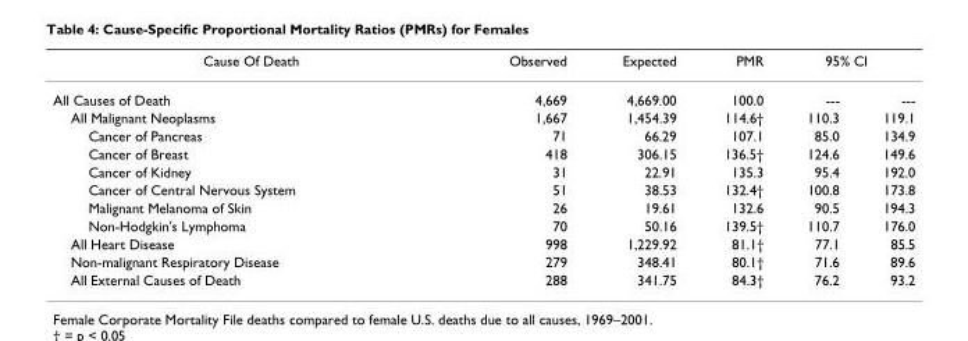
<table><thead><tr><td rowspan="2">Cause Of Death All Causes of Death</td><td rowspan="2">Observed 4,669</td><td rowspan="2">Expected 4,669.00</td><td rowspan="2">PMR 100.0</td><td colspan="2">95% CI</td></tr><tr><td>---</td><td>---</td></tr></thead><tbody><tr><td>All Malignant Neoplasms</td><td>1,667</td><td>1,454.39</td><td>114.6†</td><td>110.3</td><td>119.1</td></tr><tr><td>Cancer of Pancreas</td><td>71</td><td>66.29</td><td>107.1</td><td>85.0</td><td>134.9</td></tr><tr><td>Cancer of Breast</td><td>418</td><td>306.15</td><td>136.5†</td><td>124.6</td><td>149.6</td></tr><tr><td>Cancer of Kidney</td><td>31</td><td>22.91</td><td>135.3</td><td>95.4</td><td>192.0</td></tr><tr><td>Cancer of Central Nervous System</td><td>51</td><td>38.53</td><td>132.4†</td><td>100.8</td><td>173.8</td></tr><tr><td>Malignant Melanoma of Skin</td><td>26</td><td>19.61</td><td>132.6</td><td>90.5</td><td>194.3</td></tr><tr><td>Non-Hodgkin&#x27;s Lymphoma</td><td>70</td><td>50.16</td><td>139.5†</td><td>110.7</td><td>176.0</td></tr><tr><td>All Heart Disease</td><td>998</td><td>1,229.92</td><td>81.1†</td><td>77.1</td><td>85.5</td></tr><tr><td>Non-malignant Respiratory Disease</td><td>279</td><td>348.41</td><td>80.1†</td><td>71.6</td><td>89.6</td></tr><tr><td>All External Causes of Death</td><td>288</td><td>341.75</td><td>84.3†</td><td>76.2</td><td>93.2</td></tr></tbody></table>